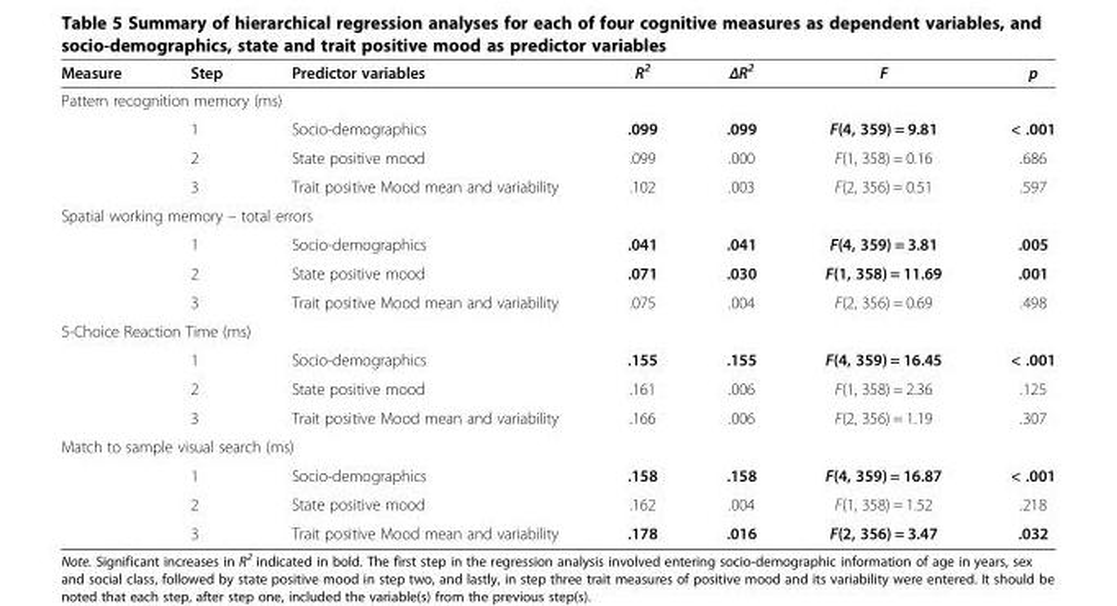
<table><thead><tr><td>Measure</td><td>Step</td><td>Predictor variables</td><td>R<sup>2</sup></td><td>ΔR2</td><td>F</td><td>p</td></tr></thead><tbody><tr><td colspan="7">Pattern recognition memory (ms)</td></tr><tr><td></td><td>1</td><td>Socio-demographics</td><td>.099</td><td>.099</td><td>F(4, 359) = 9.81</td><td>&lt; .001</td></tr><tr><td></td><td>2</td><td>State positive mood</td><td>.099</td><td>.000</td><td>F(1, 358) = 0.16</td><td>.686</td></tr><tr><td></td><td>3</td><td>Trait positive Mood mean and variability</td><td>.102</td><td>.003</td><td>F(2, 356) = 0.51</td><td>.597</td></tr><tr><td colspan="7">Spatial working memory – total errors</td></tr><tr><td></td><td>1</td><td>Socio-demographics</td><td>.041</td><td>.041</td><td>F(4, 359) = 3.81</td><td>.005</td></tr><tr><td></td><td>2</td><td>State positive mood</td><td>.071</td><td>.030</td><td>F(1, 358) = 11.69</td><td>.001</td></tr><tr><td></td><td>3</td><td>Trait positive Mood mean and variability</td><td>.075</td><td>.004</td><td>F(2, 356) = 0.69</td><td>.498</td></tr><tr><td colspan="7">5-Choice Reaction Time (ms)</td></tr><tr><td></td><td>1</td><td>Socio-demographics</td><td>.155</td><td>.155</td><td>F(4, 359) = 16.45</td><td>&lt; .001</td></tr><tr><td></td><td>2</td><td>State positive mood</td><td>.161</td><td>.006</td><td>F(1, 358) = 2.36</td><td>.125</td></tr><tr><td></td><td>3</td><td>Trait positive Mood mean and variability</td><td>.166</td><td>.006</td><td>F(2, 356) = 1.19</td><td>.307</td></tr><tr><td colspan="7">Match to sample visual search (ms)</td></tr><tr><td></td><td>1</td><td>Socio-demographics</td><td>.158</td><td>.158</td><td>F(4, 359) = 16.87</td><td>&lt; .001</td></tr><tr><td></td><td>2</td><td>State positive mood</td><td>.162</td><td>.004</td><td>F(1, 358) = 1.52</td><td>.218</td></tr><tr><td></td><td>3</td><td>Trait positive Mood mean and variability</td><td>.178</td><td>.016</td><td>F(2, 356) = 3.47</td><td>.032</td></tr></tbody></table>